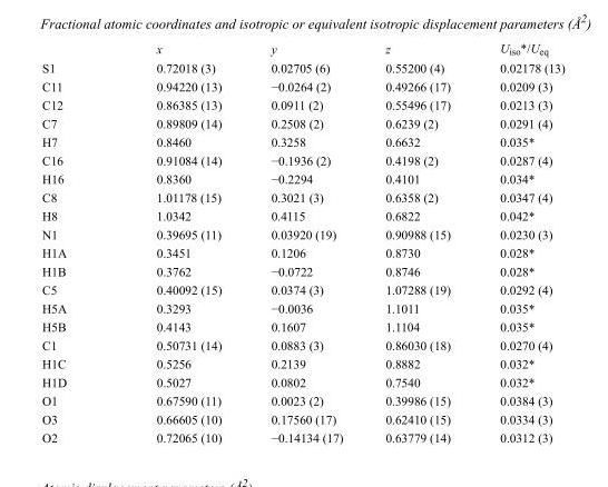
<table><thead><tr><td></td><td>x</td><td>y</td><td>z</td><td>U<sub>iso</sub>*/U<sub>eq</sub></td></tr></thead><tbody><tr><td>S1</td><td>0.72018 (3)</td><td>0.02705 (6)</td><td>0.55200 (4)</td><td>0.02178 (13)</td></tr><tr><td>C11</td><td>0.94220 (13)</td><td>−0.0264 (2)</td><td>0.49266 (17)</td><td>0.0209 (3)</td></tr><tr><td>C12</td><td>0.86385 (13)</td><td>0.0911 (2)</td><td>0.55496 (17)</td><td>0.0213 (3)</td></tr><tr><td>C7</td><td>0.89809 (14)</td><td>0.2508 (2)</td><td>0.6239 (2)</td><td>0.0291 (4)</td></tr><tr><td>H7</td><td>0.8460</td><td>0.3258</td><td>0.6632</td><td>0.035*</td></tr><tr><td>C16</td><td>0.91084 (14)</td><td>−0.1936 (2)</td><td>0.4198 (2)</td><td>0.0287 (4)</td></tr><tr><td>H16</td><td>0.8360</td><td>−0.2294</td><td>0.4101</td><td>0.034*</td></tr><tr><td>C8</td><td>1.01178 (15)</td><td>0.3021 (3)</td><td>0.6358 (2)</td><td>0.0347 (4)</td></tr><tr><td>H8</td><td>1.0342</td><td>0.4115</td><td>0.6822</td><td>0.042*</td></tr><tr><td>N1</td><td>0.39695 (11)</td><td>0.03920 (19)</td><td>0.90988 (15)</td><td>0.0230 (3)</td></tr><tr><td>H1A</td><td>0.3451</td><td>0.1206</td><td>0.8730</td><td>0.028*</td></tr><tr><td>H1B</td><td>0.3762</td><td>−0.0722</td><td>0.8746</td><td>0.028*</td></tr><tr><td>C5</td><td>0.40092 (15)</td><td>0.0374 (3)</td><td>1.07288 (19)</td><td>0.0292 (4)</td></tr><tr><td>H5A</td><td>0.3293</td><td>−0.0036</td><td>1.1011</td><td>0.035*</td></tr><tr><td>H5B</td><td>0.4143</td><td>0.1607</td><td>1.1104</td><td>0.035*</td></tr><tr><td>C1</td><td>0.50731 (14)</td><td>0.0883 (3)</td><td>0.86030 (18)</td><td>0.0270 (4)</td></tr><tr><td>H1C</td><td>0.5256</td><td>0.2139</td><td>0.8882</td><td>0.032*</td></tr><tr><td>H1D</td><td>0.5027</td><td>0.0802</td><td>0.7540</td><td>0.032*</td></tr><tr><td>O1</td><td>0.67590 (11)</td><td>0.0023 (2)</td><td>0.39986 (15)</td><td>0.0384 (3)</td></tr><tr><td>O3</td><td>0.66605 (10)</td><td>0.17560 (17)</td><td>0.62410 (15)</td><td>0.0334 (3)</td></tr><tr><td>O2</td><td>0.72065 (10)</td><td>−0.14134 (17)</td><td>0.63779 (14)</td><td>0.0312 (3)</td></tr></tbody></table>